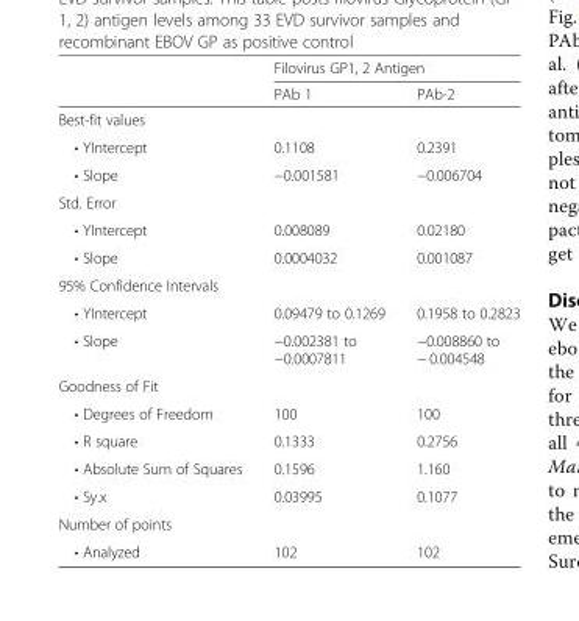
<table><thead><tr><td rowspan="2"></td><td colspan="2">Filovirus GP1, 2 Antigen</td></tr><tr><td>PAb 1</td><td>PAb-2</td></tr></thead><tbody><tr><td colspan="3">Best-fit values</td></tr><tr><td>• YIntercept</td><td>0.1108</td><td>0.2391</td></tr><tr><td>• Slope</td><td>−0.001581</td><td>−0.006704</td></tr><tr><td colspan="3">Std. Error</td></tr><tr><td>• YIntercept</td><td>0.008089</td><td>0.02180</td></tr><tr><td>• Slope</td><td>0.0004032</td><td>0.001087</td></tr><tr><td colspan="3">95% Confidence Intervals</td></tr><tr><td>• YIntercept</td><td>0.09479 to 0.1269</td><td>0.1958 to 0.2823</td></tr><tr><td>• Slope</td><td>−0.002381 to −0.0007811</td><td>−0.008860 to − 0.004548</td></tr><tr><td colspan="3">Goodness of Fit</td></tr><tr><td>• Degrees of Freedom</td><td>100</td><td>100</td></tr><tr><td>• R square</td><td>0.1333</td><td>0.2756</td></tr><tr><td>• Absolute Sum of Squares</td><td>0.1596</td><td>1.160</td></tr><tr><td>• Sy.x</td><td>0.03995</td><td>0.1077</td></tr><tr><td colspan="3">Number of points</td></tr><tr><td>• Analyzed</td><td>102</td><td>102</td></tr></tbody></table>